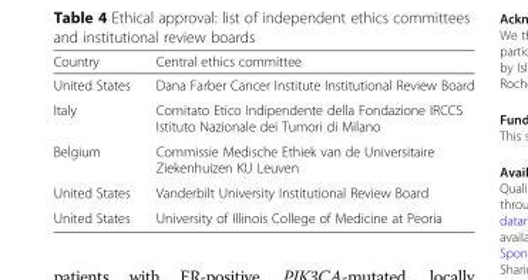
<table><thead><tr><td>Country</td><td>Central ethics committee</td></tr></thead><tbody><tr><td>United States</td><td>Dana Farber Cancer Institute Institutional Review Board</td></tr><tr><td>Italy</td><td>Comitato Etico Indipendente della Fondazione IRCCS Istituto Nazionale dei Tumori di Milano</td></tr><tr><td>Belgium</td><td>Commissie Medische Ethiek van de Universitaire Ziekenhuizen KU Leuven</td></tr><tr><td>United States</td><td>Vanderbilt University Institutional Review Board</td></tr><tr><td>United States</td><td>University of Illinois College of Medicine at Peoria</td></tr></tbody></table>